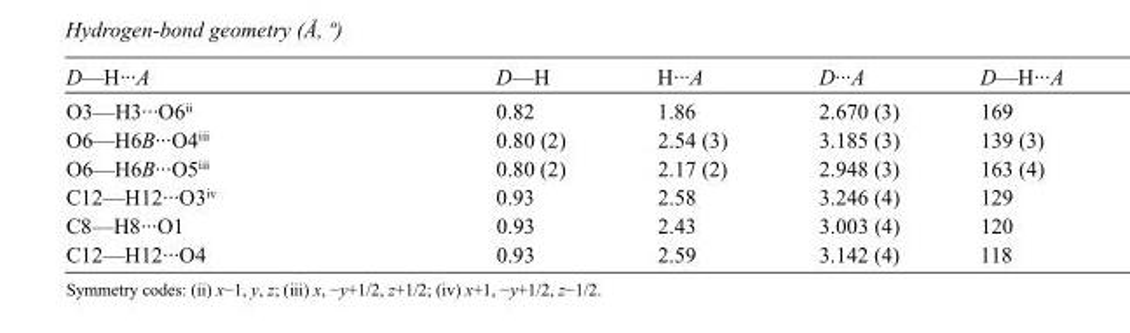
<table><tbody><tr><td>D—H···A</td><td>D—H</td><td>H···A</td><td>D···A</td><td>D—H···A</td></tr><tr><td>O3—H3···O6<sup>ii</sup></td><td>0.82</td><td>1.86</td><td>2.670 (3)</td><td>169</td></tr><tr><td>O6—H6B···O4<sup>iii</sup></td><td>0.80 (2)</td><td>2.54 (3)</td><td>3.185 (3)</td><td>139 (3)</td></tr><tr><td>O6—H6B···O5<sup>iii</sup></td><td>0.80 (2)</td><td>2.17 (2)</td><td>2.948 (3)</td><td>163 (4)</td></tr><tr><td>C12—H12···O3<sup>iv</sup></td><td>0.93</td><td>2.58</td><td>3.246 (4)</td><td>129</td></tr><tr><td>C8—H8···O1</td><td>0.93</td><td>2.43</td><td>3.003 (4)</td><td>120</td></tr><tr><td>C12—H12···O4</td><td>0.93</td><td>2.59</td><td>3.142 (4)</td><td>118</td></tr></tbody></table>